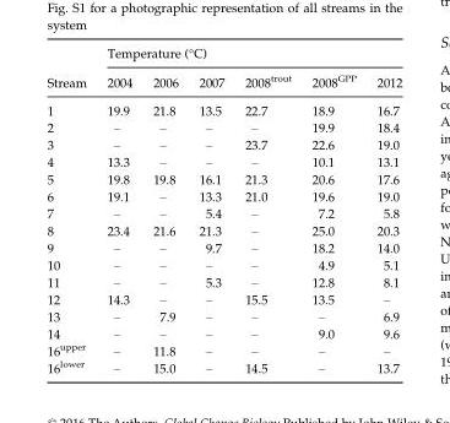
<table><thead><tr><td rowspan="2">Stream</td><td colspan="6">Temperature (°C)</td></tr><tr><td>2004</td><td>2006</td><td>2007</td><td>2008<sup>trout</sup></td><td>2008<sup>GPP</sup></td><td>2012</td></tr></thead><tbody><tr><td>1</td><td>19.9</td><td>21.8</td><td>13.5</td><td>22.7</td><td>18.9</td><td>16.7</td></tr><tr><td>2</td><td>–</td><td>–</td><td>–</td><td>–</td><td>19.9</td><td>18.4</td></tr><tr><td>3</td><td>–</td><td>–</td><td>–</td><td>23.7</td><td>22.6</td><td>19.0</td></tr><tr><td>4</td><td>13.3</td><td>–</td><td>–</td><td>–</td><td>10.1</td><td>13.1</td></tr><tr><td>5</td><td>19.8</td><td>19.8</td><td>16.1</td><td>21.3</td><td>20.6</td><td>17.6</td></tr><tr><td>6</td><td>19.1</td><td>–</td><td>13.3</td><td>21.0</td><td>19.6</td><td>19.0</td></tr><tr><td>7</td><td>–</td><td>–</td><td>5.4</td><td>–</td><td>7.2</td><td>5.8</td></tr><tr><td>8</td><td>23.4</td><td>21.6</td><td>21.3</td><td>–</td><td>25.0</td><td>20.3</td></tr><tr><td>9</td><td>–</td><td>–</td><td>9.7</td><td>–</td><td>18.2</td><td>14.0</td></tr><tr><td>10</td><td>–</td><td>–</td><td>–</td><td>–</td><td>4.9</td><td>5.1</td></tr><tr><td>11</td><td>–</td><td>–</td><td>5.3</td><td>–</td><td>12.8</td><td>8.1</td></tr><tr><td>12</td><td>14.3</td><td>–</td><td>–</td><td>15.5</td><td>13.5</td><td>–</td></tr><tr><td>13</td><td>–</td><td>7.9</td><td>–</td><td>–</td><td>–</td><td>6.9</td></tr><tr><td>14</td><td>–</td><td>–</td><td>–</td><td>–</td><td>9.0</td><td>9.6</td></tr><tr><td>16<sup>upper</sup></td><td>–</td><td>11.8</td><td>–</td><td>–</td><td>–</td><td>–</td></tr><tr><td>16<sup>lower</sup></td><td>–</td><td>15.0</td><td>–</td><td>14.5</td><td>–</td><td>13.7</td></tr></tbody></table>